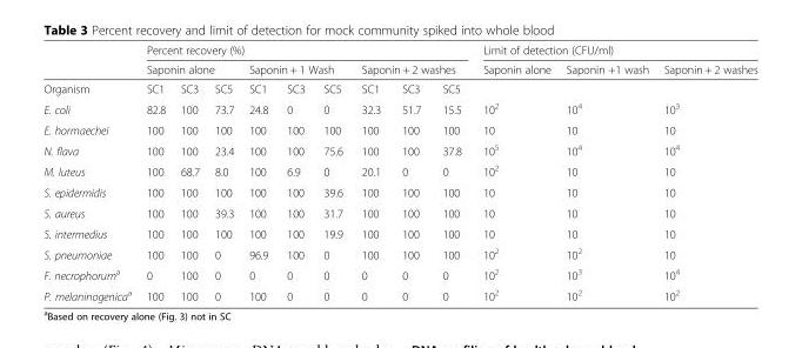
<table><thead><tr><td rowspan="3">Organism</td><td colspan="9">Percent recovery (%)</td><td colspan="3">Limit of detection (CFU/ml)</td></tr><tr><td colspan="3">Saponin alone</td><td colspan="3">Saponin + 1 Wash</td><td colspan="3">Saponin + 2 washes</td><td>Saponin alone</td><td>Saponin +1 wash</td><td>Saponin + 2 washes</td></tr><tr><td>SC1</td><td>SC3</td><td>SC5</td><td>SC1</td><td>SC3</td><td>SC5</td><td>SC1</td><td>SC3</td><td>SC5</td><td colspan="3"></td></tr></thead><tbody><tr><td>E. coli</td><td>82.8</td><td>100</td><td>73.7</td><td>24.8</td><td>0</td><td>0</td><td>32.3</td><td>51.7</td><td>15.5</td><td>10<sup>2</sup></td><td>10<sup>4</sup></td><td>10<sup>3</sup></td></tr><tr><td>E. hormaechei</td><td>100</td><td>100</td><td>100</td><td>100</td><td>100</td><td>100</td><td>100</td><td>100</td><td>100</td><td>10</td><td>10</td><td>10</td></tr><tr><td>N. flava</td><td>100</td><td>100</td><td>23.4</td><td>100</td><td>100</td><td>75.6</td><td>100</td><td>100</td><td>37.8</td><td>10<sup>5</sup></td><td>10<sup>4</sup></td><td>10<sup>4</sup></td></tr><tr><td>M. luteus</td><td>100</td><td>68.7</td><td>8.0</td><td>100</td><td>6.9</td><td>0</td><td>20.1</td><td>0</td><td>0</td><td>10<sup>2</sup></td><td>10</td><td>10</td></tr><tr><td>S. epidermidis</td><td>100</td><td>100</td><td>100</td><td>100</td><td>100</td><td>39.6</td><td>100</td><td>100</td><td>100</td><td>10</td><td>10</td><td>10</td></tr><tr><td>S. aureus</td><td>100</td><td>100</td><td>39.3</td><td>100</td><td>100</td><td>31.7</td><td>100</td><td>100</td><td>100</td><td>10</td><td>10</td><td>10</td></tr><tr><td>S. intermedius</td><td>100</td><td>100</td><td>100</td><td>100</td><td>100</td><td>19.9</td><td>100</td><td>100</td><td>100</td><td>10</td><td>10</td><td>10</td></tr><tr><td>S. pneumoniae</td><td>100</td><td>100</td><td>0</td><td>96.9</td><td>100</td><td>0</td><td>100</td><td>100</td><td>100</td><td>10<sup>2</sup></td><td>10<sup>2</sup></td><td>10</td></tr><tr><td>F. necrophorum<sup>a</sup></td><td>0</td><td>100</td><td>0</td><td>0</td><td>0</td><td>0</td><td>0</td><td>0</td><td>0</td><td>10<sup>2</sup></td><td>10<sup>3</sup></td><td>10<sup>4</sup></td></tr><tr><td>P. melaninogenica<sup>a</sup></td><td>100</td><td>100</td><td>0</td><td>100</td><td>0</td><td>0</td><td>0</td><td>0</td><td>0</td><td>10<sup>2</sup></td><td>10<sup>2</sup></td><td>10<sup>2</sup></td></tr></tbody></table>